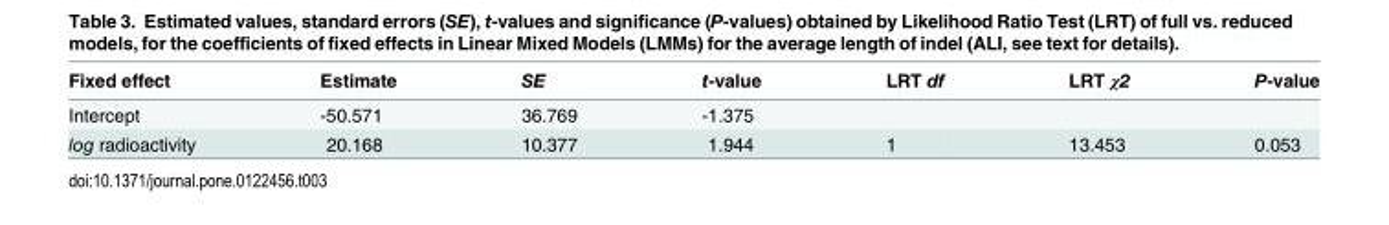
<table><thead><tr><td>Fixed effect</td><td>Estimate</td><td>SE</td><td>t-value</td><td>LRT df</td><td>LRT χ2</td><td>P-value</td></tr></thead><tbody><tr><td>Intercept</td><td>-50.571</td><td>36.769</td><td>-1.375</td><td></td><td></td><td></td></tr><tr><td>log radioactivity</td><td>20.168</td><td>10.377</td><td>1.944</td><td>1</td><td>13.453</td><td>0.053</td></tr></tbody></table>